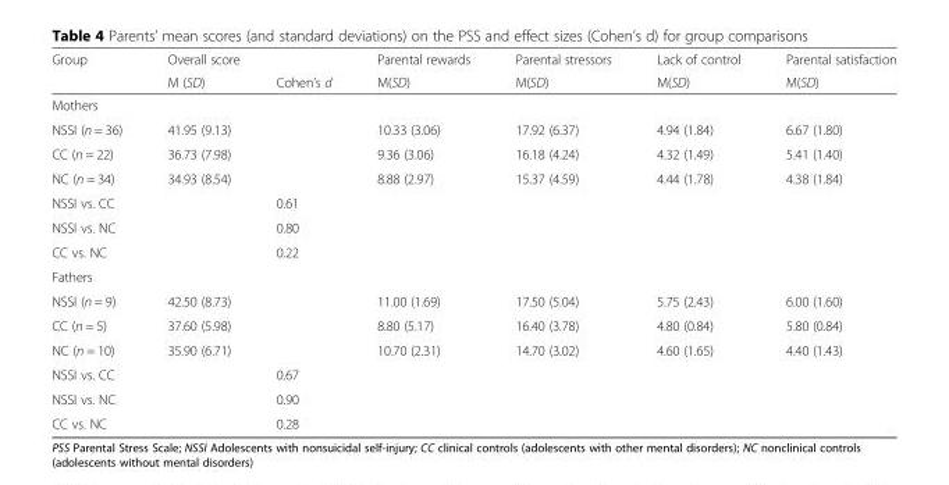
<table><thead><tr><td rowspan="2">Group</td><td colspan="2">Overall score</td><td rowspan="2">Parental rewards M(SD)</td><td rowspan="2">Parental stressors M(SD)</td><td rowspan="2">Lack of control M(SD)</td><td rowspan="2">Parental satisfaction M(SD)</td></tr><tr><td>M (SD)</td><td>Cohen’s d</td></tr></thead><tbody><tr><td colspan="7">Mothers</td></tr><tr><td>NSSI (n = 36)</td><td>41.95 (9.13)</td><td></td><td>10.33 (3.06)</td><td>17.92 (6.37)</td><td>4.94 (1.84)</td><td>6.67 (1.80)</td></tr><tr><td>CC (n = 22)</td><td>36.73 (7.98)</td><td></td><td>9.36 (3.06)</td><td>16.18 (4.24)</td><td>4.32 (1.49)</td><td>5.41 (1.40)</td></tr><tr><td>NC (n = 34)</td><td>34.93 (8.54)</td><td></td><td>8.88 (2.97)</td><td>15.37 (4.59)</td><td>4.44 (1.78)</td><td>4.38 (1.84)</td></tr><tr><td>NSSI vs. CC</td><td></td><td>0.61</td><td></td><td></td><td></td><td></td></tr><tr><td>NSSI vs. NC</td><td></td><td>0.80</td><td></td><td></td><td></td><td></td></tr><tr><td>CC vs. NC</td><td></td><td>0.22</td><td></td><td></td><td></td><td></td></tr><tr><td colspan="7">Fathers</td></tr><tr><td>NSSI (n = 9)</td><td>42.50 (8.73)</td><td></td><td>11.00 (1.69)</td><td>17.50 (5.04)</td><td>5.75 (2.43)</td><td>6.00 (1.60)</td></tr><tr><td>CC (n = 5)</td><td>37.60 (5.98)</td><td></td><td>8.80 (5.17)</td><td>16.40 (3.78)</td><td>4.80 (0.84)</td><td>5.80 (0.84)</td></tr><tr><td>NC (n = 10)</td><td>35.90 (6.71)</td><td></td><td>10.70 (2.31)</td><td>14.70 (3.02)</td><td>4.60 (1.65)</td><td>4.40 (1.43)</td></tr><tr><td>NSSI vs. CC</td><td></td><td>0.67</td><td></td><td></td><td></td><td></td></tr><tr><td>NSSI vs. NC</td><td></td><td>0.90</td><td></td><td></td><td></td><td></td></tr><tr><td>CC vs. NC</td><td></td><td>0.28</td><td></td><td></td><td></td><td></td></tr></tbody></table>